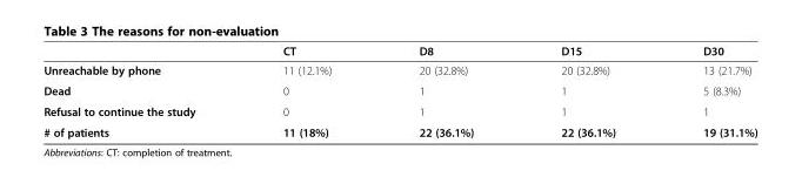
<table><thead><tr><td></td><td>CT</td><td>D8</td><td>D15</td><td>D30</td></tr></thead><tbody><tr><td>Unreachable by phone</td><td>11 (12.1%)</td><td>20 (32.8%)</td><td>20 (32.8%)</td><td>13 (21.7%)</td></tr><tr><td>Dead</td><td>0</td><td>1</td><td>1</td><td>5 (8.3%)</td></tr><tr><td>Refusal to continue the study</td><td>0</td><td>1</td><td>1</td><td>1</td></tr><tr><td># of patients</td><td>11 (18%)</td><td>22 (36.1%)</td><td>22 (36.1%)</td><td>19 (31.1%)</td></tr></tbody></table>